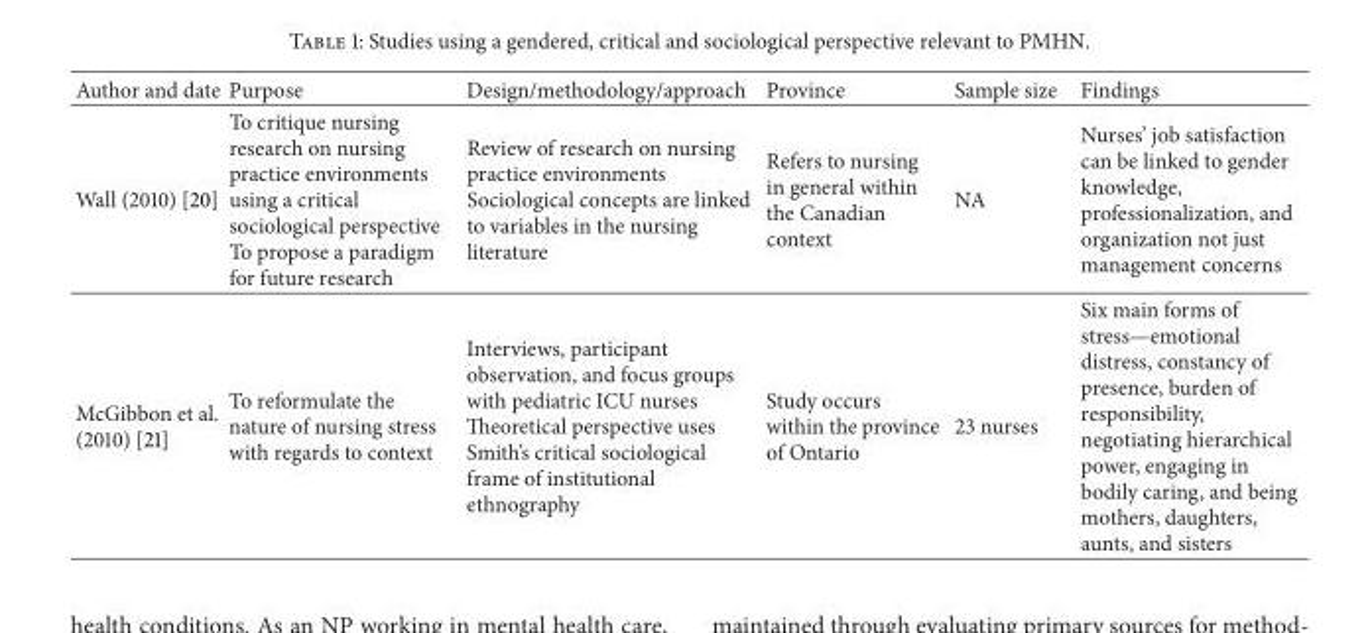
<table><thead><tr><td>Author and date</td><td>Purpose</td><td>Design/methodology/approach</td><td>Province</td><td>Sample size</td><td>Findings</td></tr></thead><tbody><tr><td>Wall (2010) [20]</td><td>To critique nursing research on nursing practice environments using a critical sociological perspective To propose a paradigm for future research</td><td>Review of research on nursing practice environments Sociological concepts are linked to variables in the nursing literature</td><td>Refers to nursing in general within the Canadian context</td><td>NA</td><td>Nurses’ job satisfaction can be linked to gender knowledge, professionalization, and organization not just management concerns</td></tr><tr><td>McGibbon et al. (2010) [21]</td><td>To reformulate the nature of nursing stress with regards to context</td><td>Interviews, participant observation, and focus groups with pediatric ICU nurses Theoretical perspective uses Smith’s critical sociological frame of institutional ethnography</td><td>Study occurs within the province of Ontario</td><td>23 nurses</td><td>Six main forms of stress—emotional distress, constancy of presence, burden of responsibility, negotiating hierarchical power, engaging in bodily caring, and being mothers, daughters, aunts, and sisters</td></tr></tbody></table>